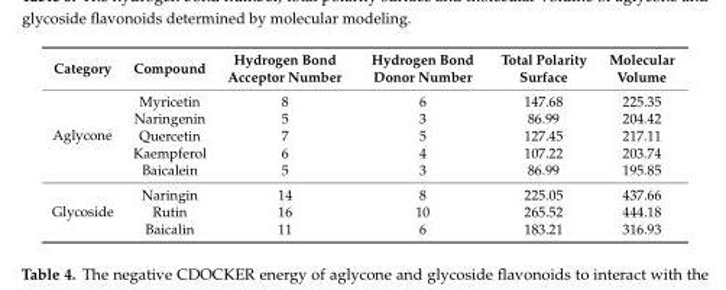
<table><thead><tr><td>Category</td><td>Compound</td><td>Hydrogen Bond Acceptor Number</td><td>Hydrogen Bond Donor Number</td><td>Total Polarity Surface</td><td>Molecular Volume</td></tr></thead><tbody><tr><td rowspan="5">Aglycone</td><td>Myricetin</td><td>8</td><td>6</td><td>147.68</td><td>225.35</td></tr><tr><td>Naringenin</td><td>5</td><td>3</td><td>86.99</td><td>204.42</td></tr><tr><td>Quercetin</td><td>7</td><td>5</td><td>127.45</td><td>217.11</td></tr><tr><td>Kaempferol</td><td>6</td><td>4</td><td>107.22</td><td>203.74</td></tr><tr><td>Baicalein</td><td>5</td><td>3</td><td>86.99</td><td>195.85</td></tr><tr><td rowspan="3">Glycoside</td><td>Naringin</td><td>14</td><td>8</td><td>225.05</td><td>437.66</td></tr><tr><td>Rutin</td><td>16</td><td>10</td><td>265.52</td><td>444.18</td></tr><tr><td>Baicalin</td><td>11</td><td>6</td><td>183.21</td><td>316.93</td></tr></tbody></table>